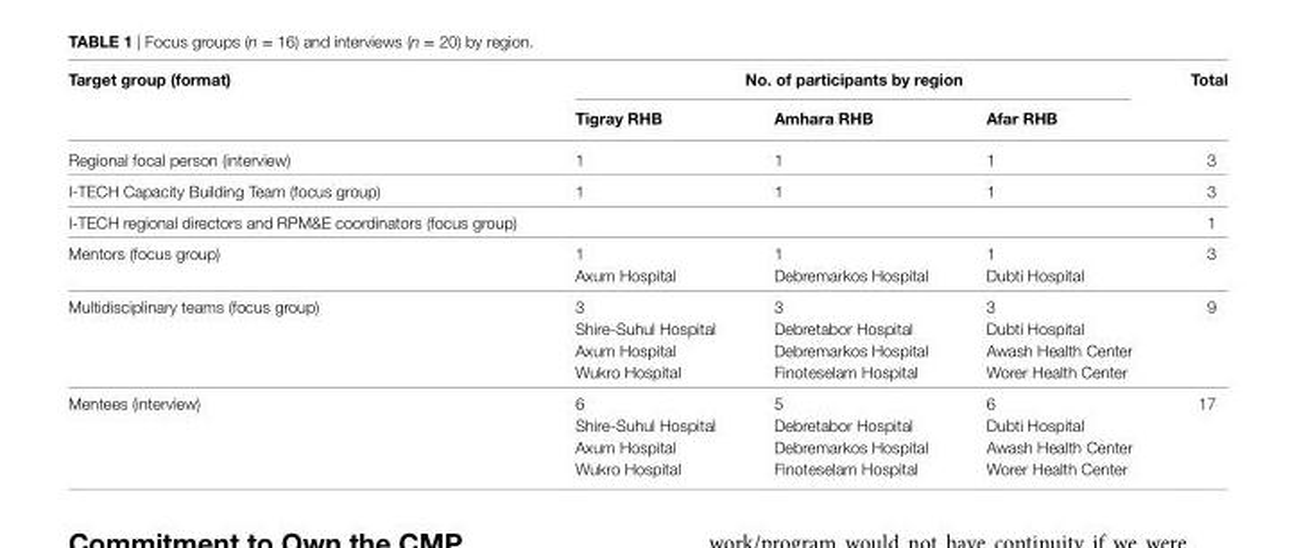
<table><thead><tr><td rowspan="2">Target group (format)</td><td colspan="3">no. of participants by region</td><td rowspan="2">Total</td></tr><tr><td>Tigray rhb</td><td>amhara rhb</td><td>afar rhb</td></tr></thead><tbody><tr><td>Regional focal person (interview)</td><td>1</td><td>1</td><td>1</td><td>3</td></tr><tr><td>I-TECH Capacity Building Team (focus group)</td><td>1</td><td>1</td><td>1</td><td>3</td></tr><tr><td>I-TECH regional directors and RPM&amp;E coordinators (focus group)</td><td></td><td></td><td></td><td>1</td></tr><tr><td rowspan="2">Mentors (focus group)</td><td>1</td><td>1</td><td>1</td><td rowspan="2">3</td></tr><tr><td>Axum Hospital</td><td>Debremarkos Hospital</td><td>Dubti Hospital</td></tr><tr><td rowspan="4">Multidisciplinary teams (focus group)</td><td>3</td><td>3</td><td>3</td><td rowspan="4">9</td></tr><tr><td>Shire-Suhul Hospital</td><td>Debretabor Hospital</td><td>Dubti Hospital</td></tr><tr><td>Axum Hospital</td><td>Debremarkos Hospital</td><td>Awash Health Center</td></tr><tr><td>Wukro Hospital</td><td>Finoteselam Hospital</td><td>Worer Health Center</td></tr><tr><td rowspan="4">Mentees (interview)</td><td>6</td><td>5</td><td>6</td><td rowspan="4">17</td></tr><tr><td>Shire-Suhul Hospital</td><td>Debretabor Hospital</td><td>Dubti Hospital</td></tr><tr><td>Axum Hospital</td><td>Debremarkos Hospital</td><td>Awash Health Center</td></tr><tr><td>Wukro Hospital</td><td>Finoteselam Hospital</td><td>Worer Health Center</td></tr></tbody></table>